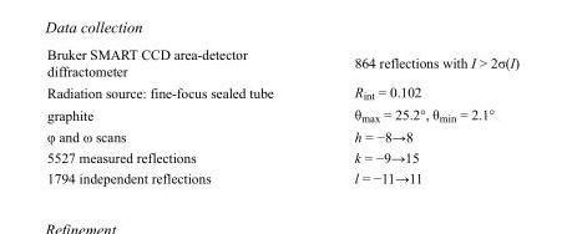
<table><tbody><tr><td>Bruker SMART CCD area-detector diffractometer</td><td>864 reflections with I &gt; 2σ(I)</td></tr><tr><td>Radiation source: fine-focus sealed tube</td><td>R<sub>int</sub> = 0.102</td></tr><tr><td>graphite</td><td>θ<sub>max</sub> = 25.2°, θ<sub>min</sub> = 2.1°</td></tr><tr><td>φ and ω scans</td><td>h = −8→8</td></tr><tr><td>5527 measured reflections</td><td>k = −9→15</td></tr><tr><td>1794 independent reflections</td><td>l = −11→11</td></tr></tbody></table>